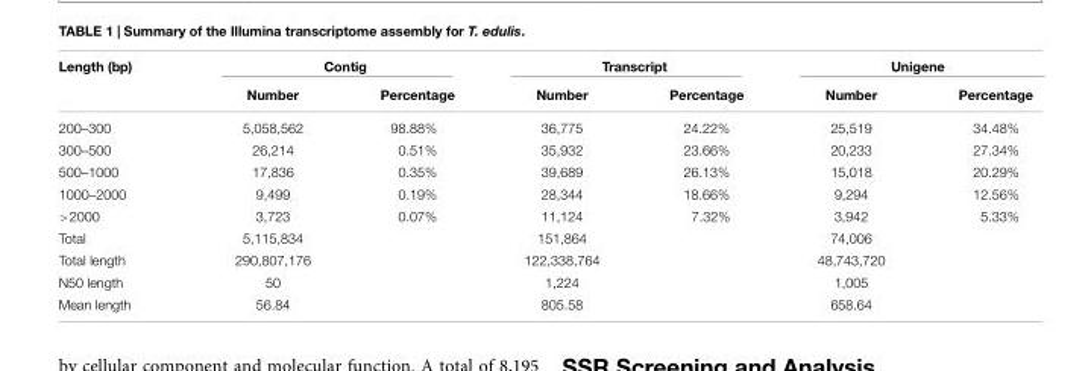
<table><thead><tr><td rowspan="2">Length (bp)</td><td colspan="2">Contig</td><td colspan="2">Transcript</td><td colspan="2">Unigene</td></tr><tr><td>Number</td><td>Percentage</td><td>Number</td><td>Percentage</td><td>Number</td><td>Percentage</td></tr></thead><tbody><tr><td>200–300</td><td>5,058,562</td><td>98.88%</td><td>36,775</td><td>24.22%</td><td>25,519</td><td>34.48%</td></tr><tr><td>300–500</td><td>26,214</td><td>0.51%</td><td>35,932</td><td>23.66%</td><td>20,233</td><td>27.34%</td></tr><tr><td>500–1000</td><td>17,836</td><td>0.35%</td><td>39,689</td><td>26.13%</td><td>15,018</td><td>20.29%</td></tr><tr><td>1000–2000</td><td>9,499</td><td>0.19%</td><td>28,344</td><td>18.66%</td><td>9,294</td><td>12.56%</td></tr><tr><td>&gt;2000</td><td>3,723</td><td>0.07%</td><td>11,124</td><td>7.32%</td><td>3,942</td><td>5.33%</td></tr><tr><td>Total</td><td>5,115,834</td><td></td><td>151,864</td><td></td><td>74,006</td><td></td></tr><tr><td>Total length</td><td>290,807,176</td><td></td><td>122,338,764</td><td></td><td>48,743,720</td><td></td></tr><tr><td>N50 length</td><td>50</td><td></td><td>1,224</td><td></td><td>1,005</td><td></td></tr><tr><td>Mean length</td><td>56.84</td><td></td><td>805.58</td><td></td><td>658.64</td><td></td></tr></tbody></table>